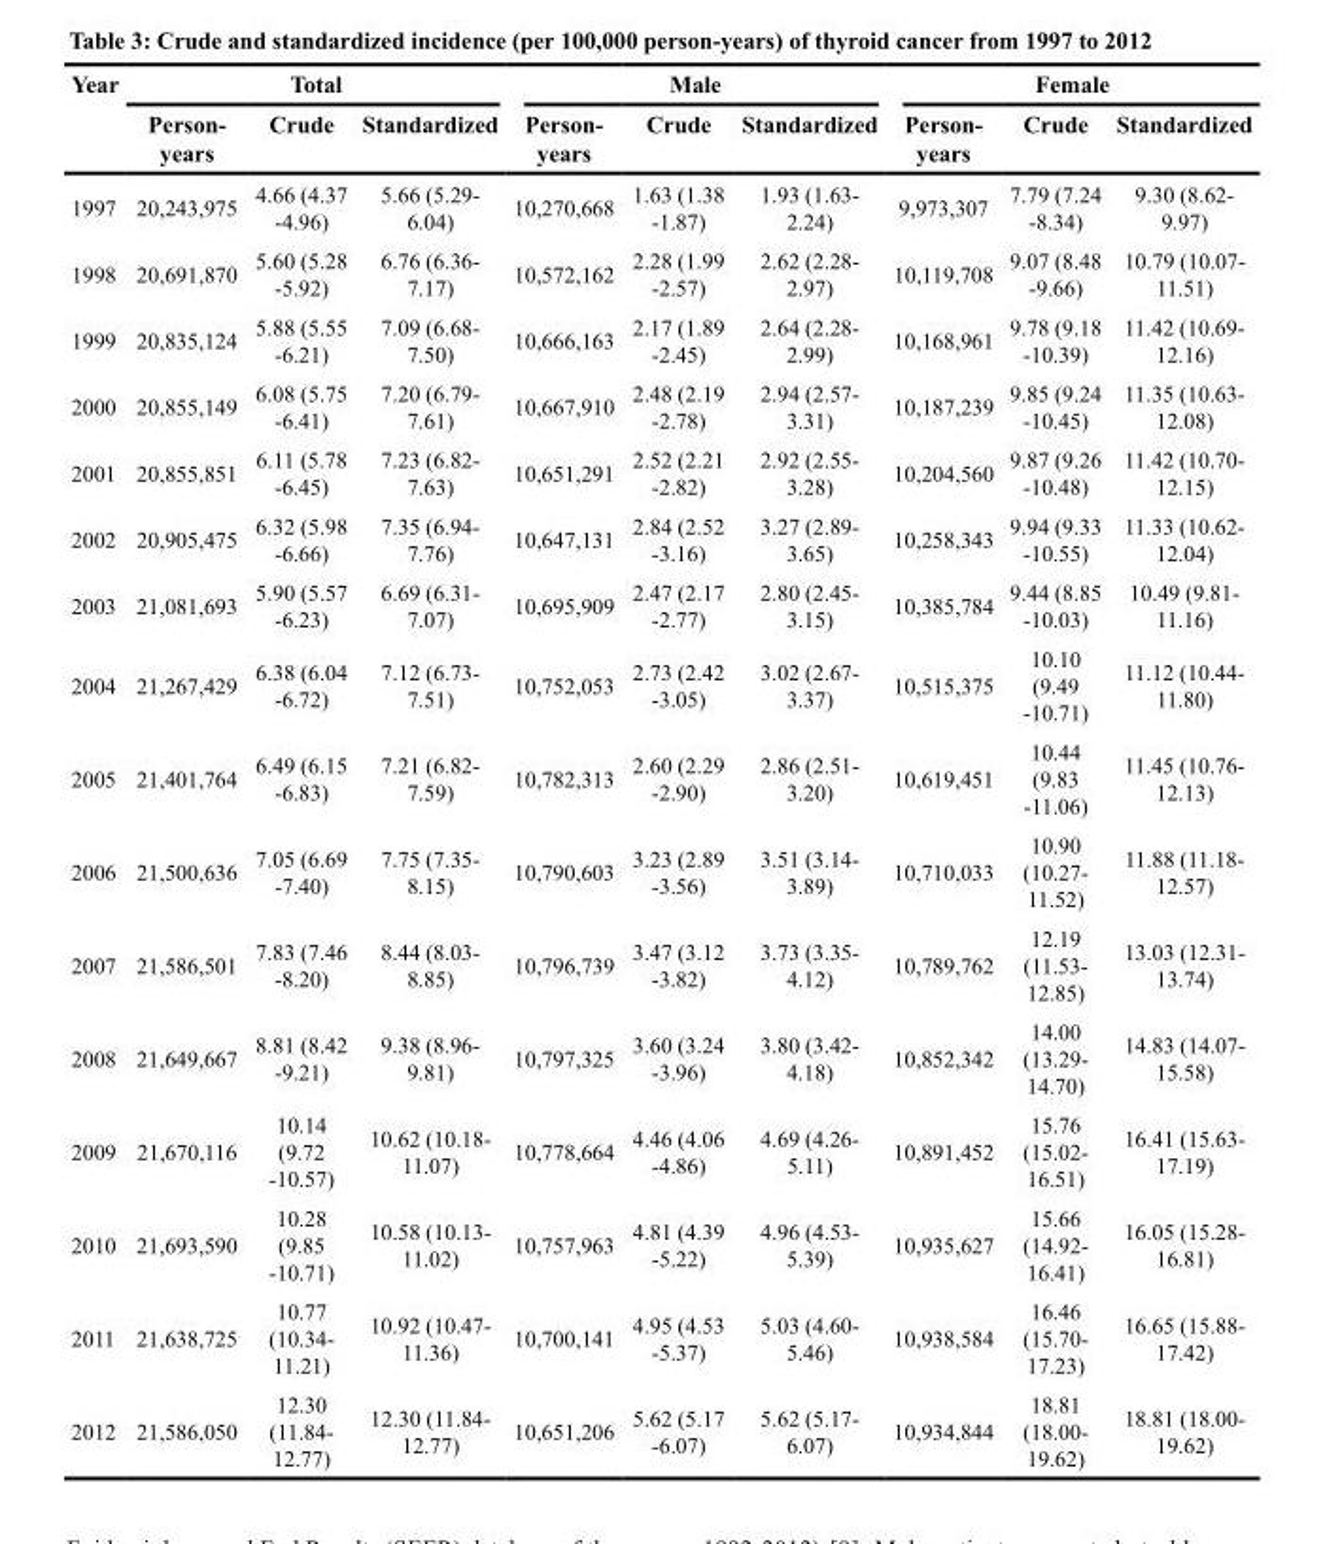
<table><thead><tr><td rowspan="2">Year</td><td colspan="3">Total</td><td colspan="3">Male</td><td colspan="3">Female</td></tr><tr><td>Person- years</td><td>Crude</td><td>Standardized</td><td>Person- years</td><td>Crude</td><td>Standardized</td><td>Person- years</td><td>Crude</td><td>Standardized</td></tr></thead><tbody><tr><td>1997</td><td>20,243,975</td><td>4.66 (4.37 -4.96)</td><td>5.66 (5.29- 6.04)</td><td>10,270,668</td><td>1.63 (1.38 -1.87)</td><td>1.93 (1.63- 2.24)</td><td>9,973,307</td><td>7.79 (7.24 -8.34)</td><td>9.30 (8.62- 9.97)</td></tr><tr><td>1998</td><td>20,691,870</td><td>5.60 (5.28 -5.92)</td><td>6.76 (6.36- 7.17)</td><td>10,572,162</td><td>2.28 (1.99 -2.57)</td><td>2.62 (2.28- 2.97)</td><td>10,119,708</td><td>9.07 (8.48 -9.66)</td><td>10.79 (10.07- 11.51)</td></tr><tr><td>1999</td><td>20,835,124</td><td>5.88 (5.55 -6.21)</td><td>7.09 (6.68- 7.50)</td><td>10,666,163</td><td>2.17 (1.89 -2.45)</td><td>2.64 (2.28- 2.99)</td><td>10,168,961</td><td>9.78 (9.18 -10.39)</td><td>11.42 (10.69- 12.16)</td></tr><tr><td>2000</td><td>20,855,149</td><td>6.08 (5.75 -6.41)</td><td>7.20 (6.79- 7.61)</td><td>10,667,910</td><td>2.48 (2.19 -2.78)</td><td>2.94 (2.57- 3.31)</td><td>10,187,239</td><td>9.85 (9.24 -10.45)</td><td>11.35 (10.63- 12.08)</td></tr><tr><td>2001</td><td>20,855,851</td><td>6.11 (5.78 -6.45)</td><td>7.23 (6.82- 7.63)</td><td>10,651,291</td><td>2.52 (2.21 -2.82)</td><td>2.92 (2.55- 3.28)</td><td>10,204,560</td><td>9.87 (9.26 -10.48)</td><td>11.42 (10.70- 12.15)</td></tr><tr><td>2002</td><td>20,905,475</td><td>6.32 (5.98 -6.66)</td><td>7.35 (6.94- 7.76)</td><td>10,647,131</td><td>2.84 (2.52 -3.16)</td><td>3.27 (2.89- 3.65)</td><td>10,258,343</td><td>9.94 (9.33 -10.55)</td><td>11.33 (10.62- 12.04)</td></tr><tr><td>2003</td><td>21,081,693</td><td>5.90 (5.57 -6.23)</td><td>6.69 (6.31- 7.07)</td><td>10,695,909</td><td>2.47 (2.17 -2.77)</td><td>2.80 (2.45- 3.15)</td><td>10,385,784</td><td>9.44 (8.85 -10.03)</td><td>10.49 (9.81- 11.16)</td></tr><tr><td>2004</td><td>21,267,429</td><td>6.38 (6.04 -6.72)</td><td>7.12 (6.73- 7.51)</td><td>10,752,053</td><td>2.73 (2.42 -3.05)</td><td>3.02 (2.67- 3.37)</td><td>10,515,375</td><td>10.10 (9.49 -10.71)</td><td>11.12 (10.44- 11.80)</td></tr><tr><td>2005</td><td>21,401,764</td><td>6.49 (6.15 -6.83)</td><td>7.21 (6.82- 7.59)</td><td>10,782,313</td><td>2.60 (2.29 -2.90)</td><td>2.86 (2.51- 3.20)</td><td>10,619,451</td><td>10.44 (9.83 -11.06)</td><td>11.45 (10.76- 12.13)</td></tr><tr><td>2006</td><td>21,500,636</td><td>7.05 (6.69 -7.40)</td><td>7.75 (7.35- 8.15)</td><td>10,790,603</td><td>3.23 (2.89 -3.56)</td><td>3.51 (3.14- 3.89)</td><td>10,710,033</td><td>10.90 (10.27- 11.52)</td><td>11.88 (11.18- 12.57)</td></tr><tr><td>2007</td><td>21,586,501</td><td>7.83 (7.46 -8.20)</td><td>8.44 (8.03- 8.85)</td><td>10,796,739</td><td>3.47 (3.12 -3.82)</td><td>3.73 (3.35- 4.12)</td><td>10,789,762</td><td>12.19 (11.53- 12.85)</td><td>13.03 (12.31- 13.74)</td></tr><tr><td>2008</td><td>21,649,667</td><td>8.81 (8.42 -9.21)</td><td>9.38 (8.96- 9.81)</td><td>10,797,325</td><td>3.60 (3.24 -3.96)</td><td>3.80 (3.42- 4.18)</td><td>10,852,342</td><td>14.00 (13.29- 14.70)</td><td>14.83 (14.07- 15.58)</td></tr><tr><td>2009</td><td>21,670,116</td><td>10.14 (9.72 -10.57)</td><td>10.62 (10.18- 11.07)</td><td>10,778,664</td><td>4.46 (4.06 -4.86)</td><td>4.69 (4.26- 5.11)</td><td>10,891,452</td><td>15.76 (15.02- 16.51)</td><td>16.41 (15.63- 17.19)</td></tr><tr><td>2010</td><td>21,693,590</td><td>10.28 (9.85 -10.71)</td><td>10.58 (10.13- 11.02)</td><td>10,757,963</td><td>4.81 (4.39 -5.22)</td><td>4.96 (4.53- 5.39)</td><td>10,935,627</td><td>15.66 (14.92- 16.41)</td><td>16.05 (15.28- 16.81)</td></tr><tr><td>2011</td><td>21,638,725</td><td>10.77 (10.34- 11.21)</td><td>10.92 (10.47- 11.36)</td><td>10,700,141</td><td>4.95 (4.53 -5.37)</td><td>5.03 (4.60- 5.46)</td><td>10,938,584</td><td>16.46 (15.70- 17.23)</td><td>16.65 (15.88- 17.42)</td></tr><tr><td>2012</td><td>21,586,050</td><td>12.30 (11.84- 12.77)</td><td>12.30 (11.84- 12.77)</td><td>10,651,206</td><td>5.62 (5.17 -6.07)</td><td>5.62 (5.17- 6.07)</td><td>10,934,844</td><td>18.81 (18.00- 19.62)</td><td>18.81 (18.00- 19.62)</td></tr></tbody></table>